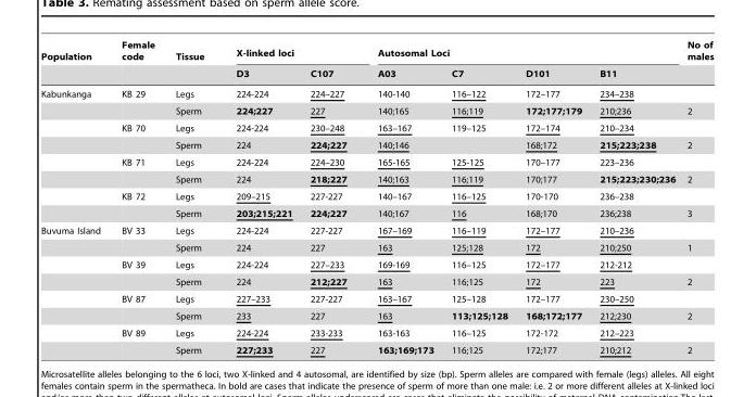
<table><thead><tr><td rowspan="2">Population</td><td rowspan="2">Female code</td><td rowspan="2">Tissue</td><td colspan="2">X-linked loci</td><td colspan="4">Autosomal Loci</td><td rowspan="2">No of males</td></tr><tr><td>D3</td><td>C107</td><td>A03</td><td>C7</td><td>D101</td><td>B11</td></tr></thead><tbody><tr><td rowspan="8">Kabunkanga</td><td>KB 29</td><td>Legs</td><td>224-224</td><td>224–227</td><td>140-140</td><td>116–122</td><td>172–177</td><td>234–238</td><td></td></tr><tr><td></td><td>Sperm</td><td>224;227</td><td>227</td><td>140;165</td><td>116;119</td><td>172;177;179</td><td>210;236</td><td>2</td></tr><tr><td>KB 70</td><td>Legs</td><td>224-224</td><td>230–248</td><td>163–167</td><td>119–125</td><td>172–174</td><td>210–234</td><td></td></tr><tr><td></td><td>Sperm</td><td>224</td><td>224;227</td><td>140;146</td><td></td><td>168;172</td><td>215;223;238</td><td>2</td></tr><tr><td>KB 71</td><td>Legs</td><td>224-224</td><td>224–230</td><td>165-165</td><td>125-125</td><td>170–177</td><td>223–236</td><td></td></tr><tr><td></td><td>Sperm</td><td>224</td><td>218;227</td><td>140;163</td><td>116;119</td><td>170;177</td><td>215;223;230;236</td><td>2</td></tr><tr><td>KB 72</td><td>Legs</td><td>209–215</td><td>227-227</td><td>140–167</td><td>116–125</td><td>170-170</td><td>236–238</td><td></td></tr><tr><td></td><td>Sperm</td><td>203;215;221</td><td>224;227</td><td>140;167</td><td>116</td><td>168;170</td><td>236;238</td><td>3</td></tr><tr><td rowspan="8">Buvuma Island</td><td>BV 33</td><td>Legs</td><td>224-224</td><td>227-227</td><td>167–169</td><td>116–119</td><td>172–177</td><td>210–236</td><td></td></tr><tr><td></td><td>Sperm</td><td>224</td><td>227</td><td>163</td><td>125;128</td><td>172</td><td>210;250</td><td>1</td></tr><tr><td>BV 39</td><td>Legs</td><td>224-224</td><td>227–233</td><td>169-169</td><td>116–125</td><td>172–177</td><td>212-212</td><td></td></tr><tr><td></td><td>Sperm</td><td>224</td><td>212;227</td><td>163</td><td>116;125</td><td>172</td><td>223</td><td>2</td></tr><tr><td>BV 87</td><td>Legs</td><td>227–233</td><td>227-227</td><td>163–167</td><td>125–128</td><td>172–177</td><td>230–250</td><td></td></tr><tr><td></td><td>Sperm</td><td>233</td><td>227</td><td>163</td><td>113;125;128</td><td>168;172;177</td><td>212;230</td><td>2</td></tr><tr><td>BV 89</td><td>Legs</td><td>224-224</td><td>233-233</td><td>163-163</td><td>116–125</td><td>172-172</td><td>212–223</td><td></td></tr><tr><td></td><td>Sperm</td><td>227;233</td><td>227</td><td>163;169;173</td><td>116;125</td><td>172;177</td><td>210;212</td><td>2</td></tr></tbody></table>